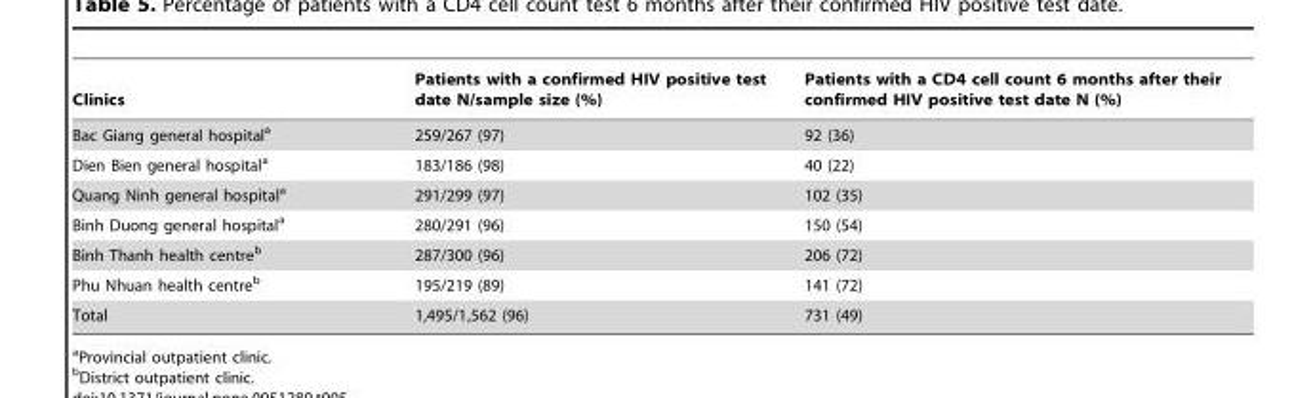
<table><thead><tr><td>Clinics</td><td>Patients with a confirmed HIV positive test date N/sample size (%)</td><td>Patients with a CD4 cell count 6 months after their confirmed HIV positive test date N (%)</td></tr></thead><tbody><tr><td>Bac Giang general hospital<sup>a</sup></td><td>259/267 (97)</td><td>92 (36)</td></tr><tr><td>Dien Bien general hospital<sup>a</sup></td><td>183/186 (98)</td><td>40 (22)</td></tr><tr><td>Quang Ninh general hospital<sup>a</sup></td><td>291/299 (97)</td><td>102 (35)</td></tr><tr><td>Binh Duong general hospital<sup>a</sup></td><td>280/291 (96)</td><td>150 (54)</td></tr><tr><td>Binh Thanh health centre<sup>b</sup></td><td>287/300 (96)</td><td>206 (72)</td></tr><tr><td>Phu Nhuan health centre<sup>b</sup></td><td>195/219 (89)</td><td>141 (72)</td></tr><tr><td>Total</td><td>1,495/1,562 (96)</td><td>731 (49)</td></tr></tbody></table>